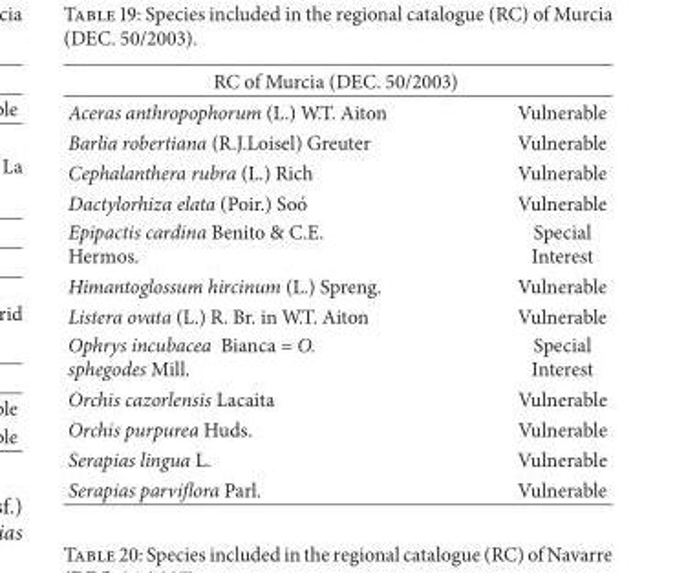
<table><thead><tr><td colspan="2">RC of Murcia (DEC. 50/2003)</td></tr><tr><td>Aceras anthropophorum (L.) W.T. Aiton</td><td>Vulnerable</td></tr></thead><tbody><tr><td>Barlia robertiana (R.J.Loisel) Greuter</td><td>Vulnerable</td></tr><tr><td>Cephalanthera rubra (L.) Rich</td><td>Vulnerable</td></tr><tr><td>Dactylorhiza elata (Poir.) So´o</td><td>Vulnerable</td></tr><tr><td>Epipactis cardina Benito &amp; C.E. Hermos.</td><td>Special Interest</td></tr><tr><td>Himantoglossum hircinum (L.) Spreng.</td><td>Vulnerable</td></tr><tr><td>Listera ovata (L.) R. Br. in W.T. Aiton</td><td>Vulnerable</td></tr><tr><td>Ophrys incubacea Bianca = O. sphegodes Mill.</td><td>Special Interest</td></tr><tr><td>Orchis cazorlensis Lacaita</td><td>Vulnerable</td></tr><tr><td>Orchis purpurea Huds.</td><td>Vulnerable</td></tr><tr><td>Serapias lingua L.</td><td>Vulnerable</td></tr><tr><td>Serapias parviflora Parl.</td><td>Vulnerable</td></tr></tbody></table>